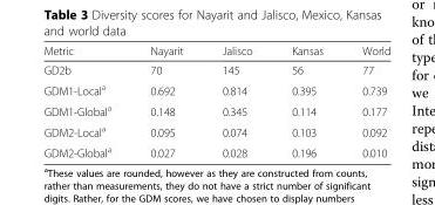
<table><thead><tr><td>Metric</td><td>Nayarit</td><td>Jalisco</td><td>Kansas</td><td>World</td></tr></thead><tbody><tr><td>GD2b</td><td>70</td><td>145</td><td>56</td><td>77</td></tr><tr><td>GDM1-Local<sup>a</sup></td><td>0.692</td><td>0.814</td><td>0.395</td><td>0.739</td></tr><tr><td>GDM1-Global<sup>a</sup></td><td>0.148</td><td>0.345</td><td>0.114</td><td>0.177</td></tr><tr><td>GDM2-Local<sup>a</sup></td><td>0.095</td><td>0.074</td><td>0.103</td><td>0.092</td></tr><tr><td>GDM2-Global<sup>a</sup></td><td>0.027</td><td>0.028</td><td>0.196</td><td>0.010</td></tr></tbody></table>